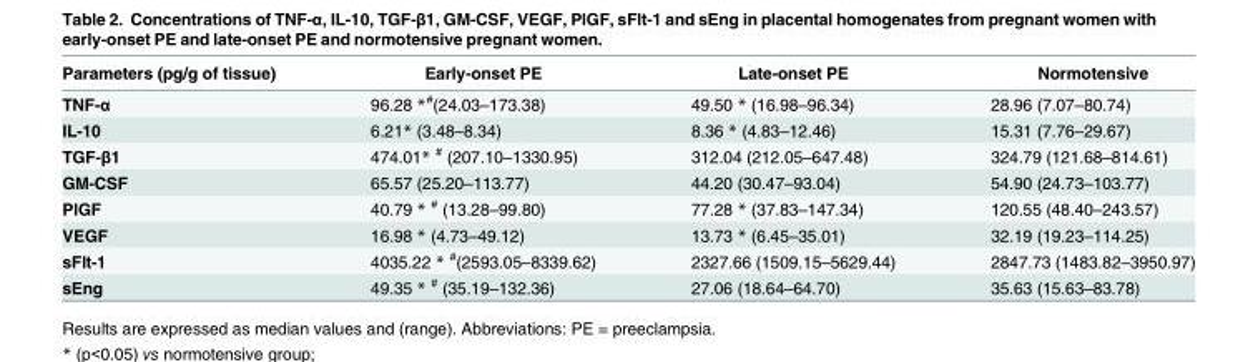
<table><thead><tr><td>Parameters (pg/g of tissue)</td><td>Early-onset PE</td><td>Late-onset PE</td><td>Normotensive</td></tr></thead><tbody><tr><td>TNF-α</td><td>96.28 *<sup>#</sup>(24.03–173.38)</td><td>49.50 * (16.98–96.34)</td><td>28.96 (7.07–80.74)</td></tr><tr><td>IL-10</td><td>6.21* (3.48–8.34)</td><td>8.36 * (4.83–12.46)</td><td>15.31 (7.76–29.67)</td></tr><tr><td>TGF-β1</td><td>474.01* <sup>#</sup> (207.10–1330.95)</td><td>312.04 (212.05–647.48)</td><td>324.79 (121.68–814.61)</td></tr><tr><td>GM-CSF</td><td>65.57 (25.20–113.77)</td><td>44.20 (30.47–93.04)</td><td>54.90 (24.73–103.77)</td></tr><tr><td>PlGF</td><td>40.79 * <sup>#</sup> (13.28–99.80)</td><td>77.28 * (37.83–147.34)</td><td>120.55 (48.40–243.57)</td></tr><tr><td>VEGF</td><td>16.98 * (4.73–49.12)</td><td>13.73 * (6.45–35.01)</td><td>32.19 (19.23–114.25)</td></tr><tr><td>sFlt-1</td><td>4035.22 * <sup>#</sup>(2593.05–8339.62)</td><td>2327.66 (1509.15–5629.44)</td><td>2847.73 (1483.82–3950.97)</td></tr><tr><td>sEng</td><td>49.35 * <sup>#</sup> (35.19–132.36)</td><td>27.06 (18.64–64.70)</td><td>35.63 (15.63–83.78)</td></tr></tbody></table>